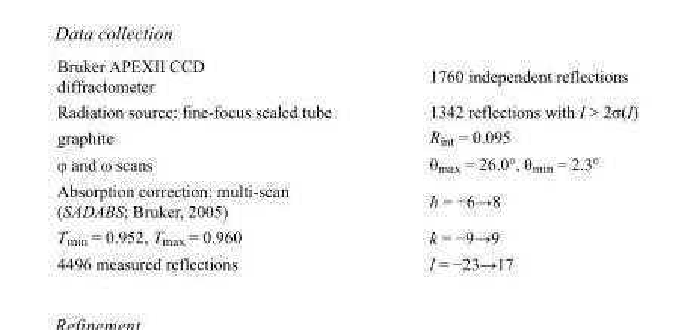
<table><tbody><tr><td>Bruker APEXII CCD diffractometer</td><td>1760 independent reflections</td></tr><tr><td>Radiation source: fine-focus sealed tube</td><td>1342 reflections with I &gt; 2σ(I)</td></tr><tr><td>graphite</td><td>R<sub>int</sub> = 0.095</td></tr><tr><td>φ and ω scans</td><td>θ<sub>max</sub> = 26.0°, θ<sub>min</sub> = 2.3°</td></tr><tr><td>Absorption correction: multi-scan (SADABS; Bruker, 2005)</td><td>h = −6→8</td></tr><tr><td>T<sub>min</sub> = 0.952, T<sub>max</sub> = 0.960</td><td>k = −9→9</td></tr><tr><td>4496 measured reflections</td><td>l = −23→17</td></tr></tbody></table>